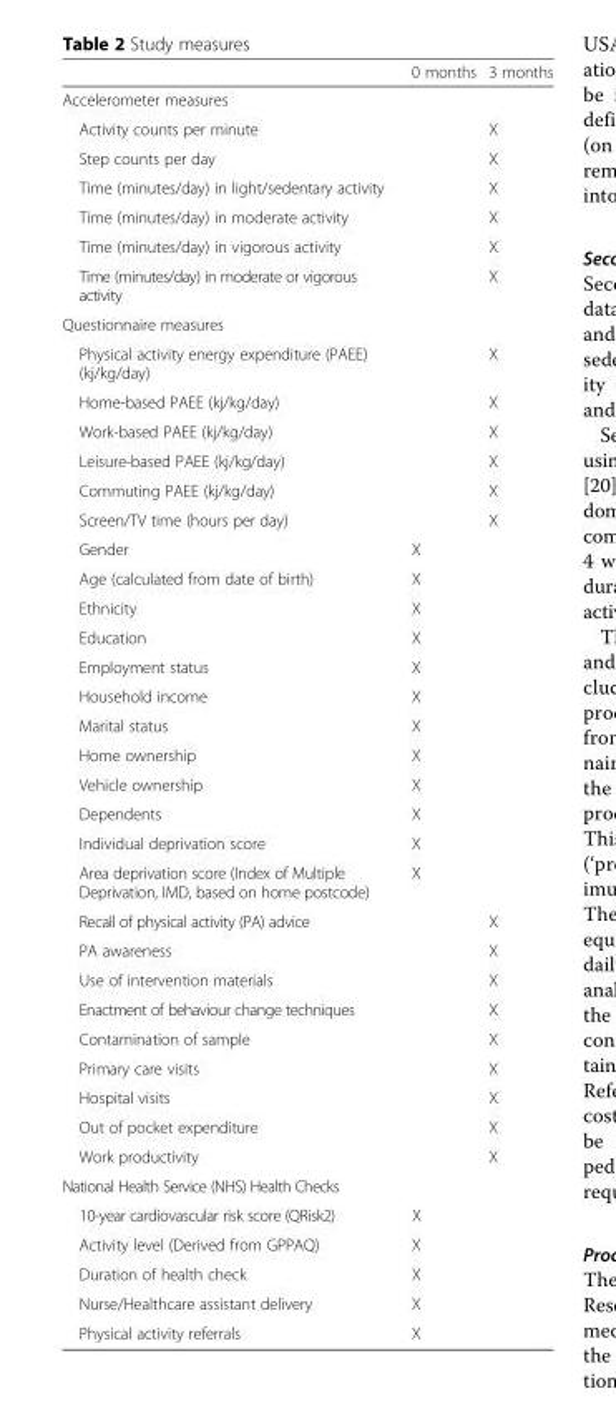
<table><thead><tr><td></td><td>0 months</td><td>3 months</td></tr></thead><tbody><tr><td colspan="3">Accelerometer measures</td></tr><tr><td>Activity counts per minute</td><td></td><td>X</td></tr><tr><td>Step counts per day</td><td></td><td>X</td></tr><tr><td>Time (minutes/day) in light/sedentary activity</td><td></td><td>X</td></tr><tr><td>Time (minutes/day) in moderate activity</td><td></td><td>X</td></tr><tr><td>Time (minutes/day) in vigorous activity</td><td></td><td>X</td></tr><tr><td>Time (minutes/day) in moderate or vigorous activity</td><td></td><td>X</td></tr><tr><td colspan="3">Questionnaire measures</td></tr><tr><td>Physical activity energy expenditure (PAEE) (kj/kg/day)</td><td></td><td>X</td></tr><tr><td>Home-based PAEE (kj/kg/day)</td><td></td><td>X</td></tr><tr><td>Work-based PAEE (kj/kg/day)</td><td></td><td>X</td></tr><tr><td>Leisure-based PAEE (kj/kg/day)</td><td></td><td>X</td></tr><tr><td>Commuting PAEE (kj/kg/day)</td><td></td><td>X</td></tr><tr><td>Screen/TV time (hours per day)</td><td></td><td>X</td></tr><tr><td>Gender</td><td>X</td><td></td></tr><tr><td>Age (calculated from date of birth)</td><td>X</td><td></td></tr><tr><td>Ethnicity</td><td>X</td><td></td></tr><tr><td>Education</td><td>X</td><td></td></tr><tr><td>Employment status</td><td>X</td><td></td></tr><tr><td>Household income</td><td>X</td><td></td></tr><tr><td>Marital status</td><td>X</td><td></td></tr><tr><td>Home ownership</td><td>X</td><td></td></tr><tr><td>Vehicle ownership</td><td>X</td><td></td></tr><tr><td>Dependents</td><td>X</td><td></td></tr><tr><td>Individual deprivation score</td><td>X</td><td></td></tr><tr><td>Area deprivation score (Index of Multiple Deprivation, IMD, based on home postcode)</td><td>X</td><td></td></tr><tr><td>Recall of physical activity (PA) advice</td><td></td><td>X</td></tr><tr><td>PA awareness</td><td></td><td>X</td></tr><tr><td>Use of intervention materials</td><td></td><td>X</td></tr><tr><td>Enactment of behaviour change techniques</td><td></td><td>X</td></tr><tr><td>Contamination of sample</td><td></td><td>X</td></tr><tr><td>Primary care visits</td><td></td><td>X</td></tr><tr><td>Hospital visits</td><td></td><td>X</td></tr><tr><td>Out of pocket expenditure</td><td></td><td>X</td></tr><tr><td>Work productivity</td><td></td><td>X</td></tr><tr><td colspan="3">National Health Service (NHS) Health Checks</td></tr><tr><td>10-year cardiovascular risk score (QRisk2)</td><td>X</td><td></td></tr><tr><td>Activity level (Derived from GPPAQ)</td><td>X</td><td></td></tr><tr><td>Duration of health check</td><td>X</td><td></td></tr><tr><td>Nurse/Healthcare assistant delivery</td><td>X</td><td></td></tr><tr><td>Physical activity referrals</td><td>X</td><td></td></tr></tbody></table>